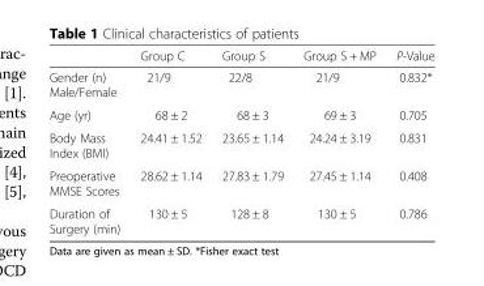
<table><thead><tr><td></td><td>Group C</td><td>Group S</td><td>Group S + MP</td><td>P-Value</td></tr></thead><tbody><tr><td>Gender (n) Male/Female</td><td>21/9</td><td>22/8</td><td>21/9</td><td>0.832*</td></tr><tr><td>Age (yr)</td><td>68 ± 2</td><td>68 ± 3</td><td>69 ± 3</td><td>0.705</td></tr><tr><td>Body Mass Index (BMI)</td><td>24.41 ± 1.52</td><td>23.65 ± 1.14</td><td>24.24 ± 3.19</td><td>0.831</td></tr><tr><td>Preoperative MMSE Scores</td><td>28.62 ± 1.14</td><td>27.83 ± 1.79</td><td>27.45 ± 1.14</td><td>0.408</td></tr><tr><td>Duration of Surgery (min)</td><td>130 ± 5</td><td>128 ± 8</td><td>130 ± 5</td><td>0.786</td></tr></tbody></table>